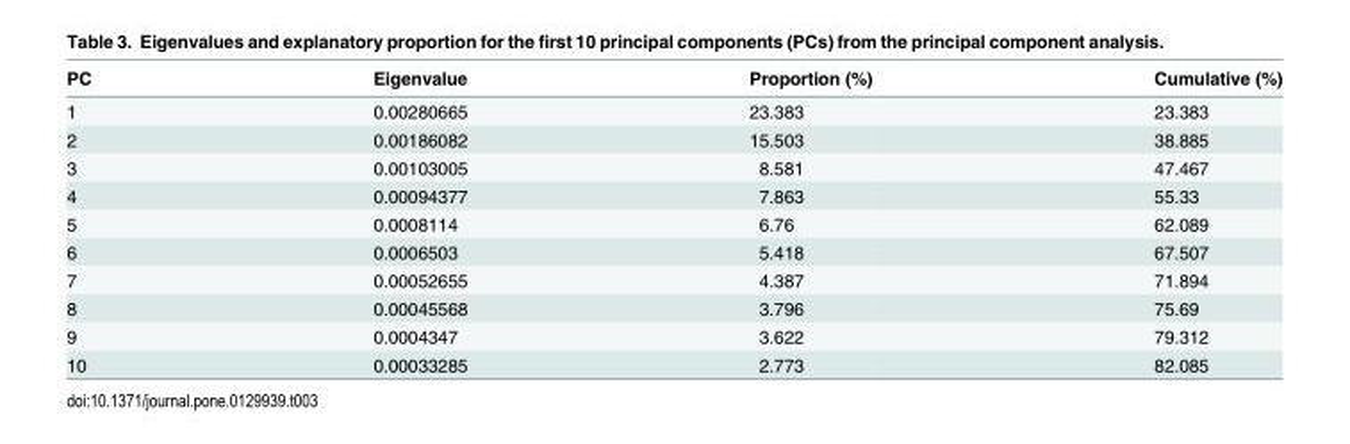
<table><thead><tr><td>PC</td><td>Eigenvalue</td><td>Proportion (%)</td><td>Cumulative (%)</td></tr></thead><tbody><tr><td>1</td><td>0.00280665</td><td>23.383</td><td>23.383</td></tr><tr><td>2</td><td>0.00186082</td><td>15.503</td><td>38.885</td></tr><tr><td>3</td><td>0.00103005</td><td>8.581</td><td>47.467</td></tr><tr><td>4</td><td>0.00094377</td><td>7.863</td><td>55.33</td></tr><tr><td>5</td><td>0.0008114</td><td>6.76</td><td>62.089</td></tr><tr><td>6</td><td>0.0006503</td><td>5.418</td><td>67.507</td></tr><tr><td>7</td><td>0.00052655</td><td>4.387</td><td>71.894</td></tr><tr><td>8</td><td>0.00045568</td><td>3.796</td><td>75.69</td></tr><tr><td>9</td><td>0.0004347</td><td>3.622</td><td>79.312</td></tr><tr><td>10</td><td>0.00033285</td><td>2.773</td><td>82.085</td></tr></tbody></table>